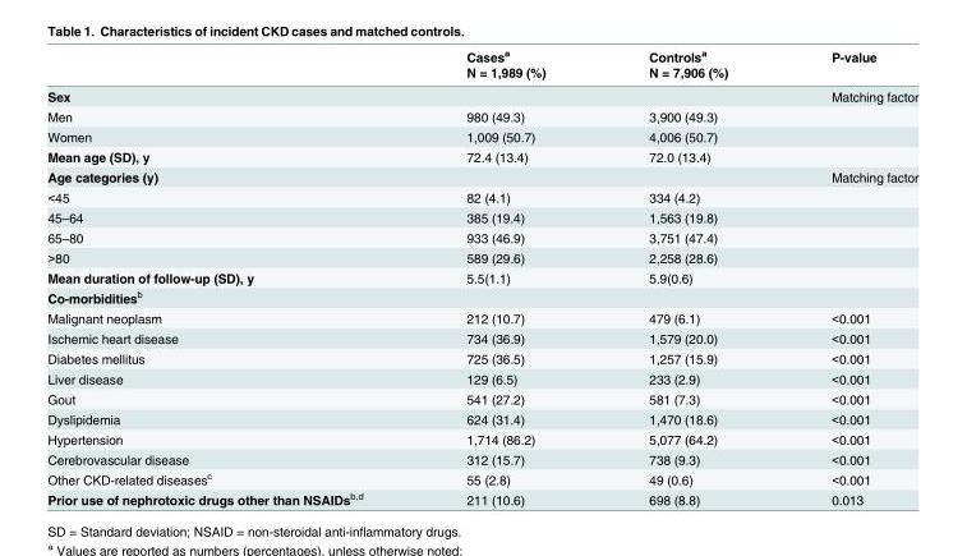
<table><thead><tr><td rowspan="2"></td><td rowspan="2">Cases<sup>a</sup> N = 1,989 (%)</td><td rowspan="2">Controls<sup>a</sup> N = 7,906 (%)</td><td rowspan="2">P-value</td></tr><tr></tr></thead><tbody><tr><td colspan="3">Sex</td><td>Matching factor</td></tr><tr><td>Men</td><td>980 (49.3)</td><td>3,900 (49.3)</td><td></td></tr><tr><td>Women</td><td>1,009 (50.7)</td><td>4,006 (50.7)</td><td></td></tr><tr><td>Mean age (SD), y</td><td>72.4 (13.4)</td><td>72.0 (13.4)</td><td></td></tr><tr><td>Age categories (y)</td><td></td><td></td><td>Matching factor</td></tr><tr><td>&lt;45</td><td>82 (4.1)</td><td>334 (4.2)</td><td></td></tr><tr><td>45–64</td><td>385 (19.4)</td><td>1,563 (19.8)</td><td></td></tr><tr><td>65–80</td><td>933 (46.9)</td><td>3,751 (47.4)</td><td></td></tr><tr><td>&gt;80</td><td>589 (29.6)</td><td>2,258 (28.6)</td><td></td></tr><tr><td>Mean duration of follow-up (SD), y</td><td>5.5(1.1)</td><td>5.9(0.6)</td><td></td></tr><tr><td colspan="4">Co-morbidities<sup>b</sup></td></tr><tr><td>Malignant neoplasm</td><td>212 (10.7)</td><td>479 (6.1)</td><td>&lt;0.001</td></tr><tr><td>Ischemic heart disease</td><td>734 (36.9)</td><td>1,579 (20.0)</td><td>&lt;0.001</td></tr><tr><td>Diabetes mellitus</td><td>725 (36.5)</td><td>1,257 (15.9)</td><td>&lt;0.001</td></tr><tr><td>Liver disease</td><td>129 (6.5)</td><td>233 (2.9)</td><td>&lt;0.001</td></tr><tr><td>Gout</td><td>541 (27.2)</td><td>581 (7.3)</td><td>&lt;0.001</td></tr><tr><td>Dyslipidemia</td><td>624 (31.4)</td><td>1,470 (18.6)</td><td>&lt;0.001</td></tr><tr><td>Hypertension</td><td>1,714 (86.2)</td><td>5,077 (64.2)</td><td>&lt;0.001</td></tr><tr><td>Cerebrovascular disease</td><td>312 (15.7)</td><td>738 (9.3)</td><td>&lt;0.001</td></tr><tr><td>Other CKD-related diseases<sup>c</sup></td><td>55 (2.8)</td><td>49 (0.6)</td><td>&lt;0.001</td></tr><tr><td>Prior use of nephrotoxic drugs other than NSAIDs<sup>b,d</sup></td><td>211 (10.6)</td><td>698 (8.8)</td><td>0.013</td></tr></tbody></table>